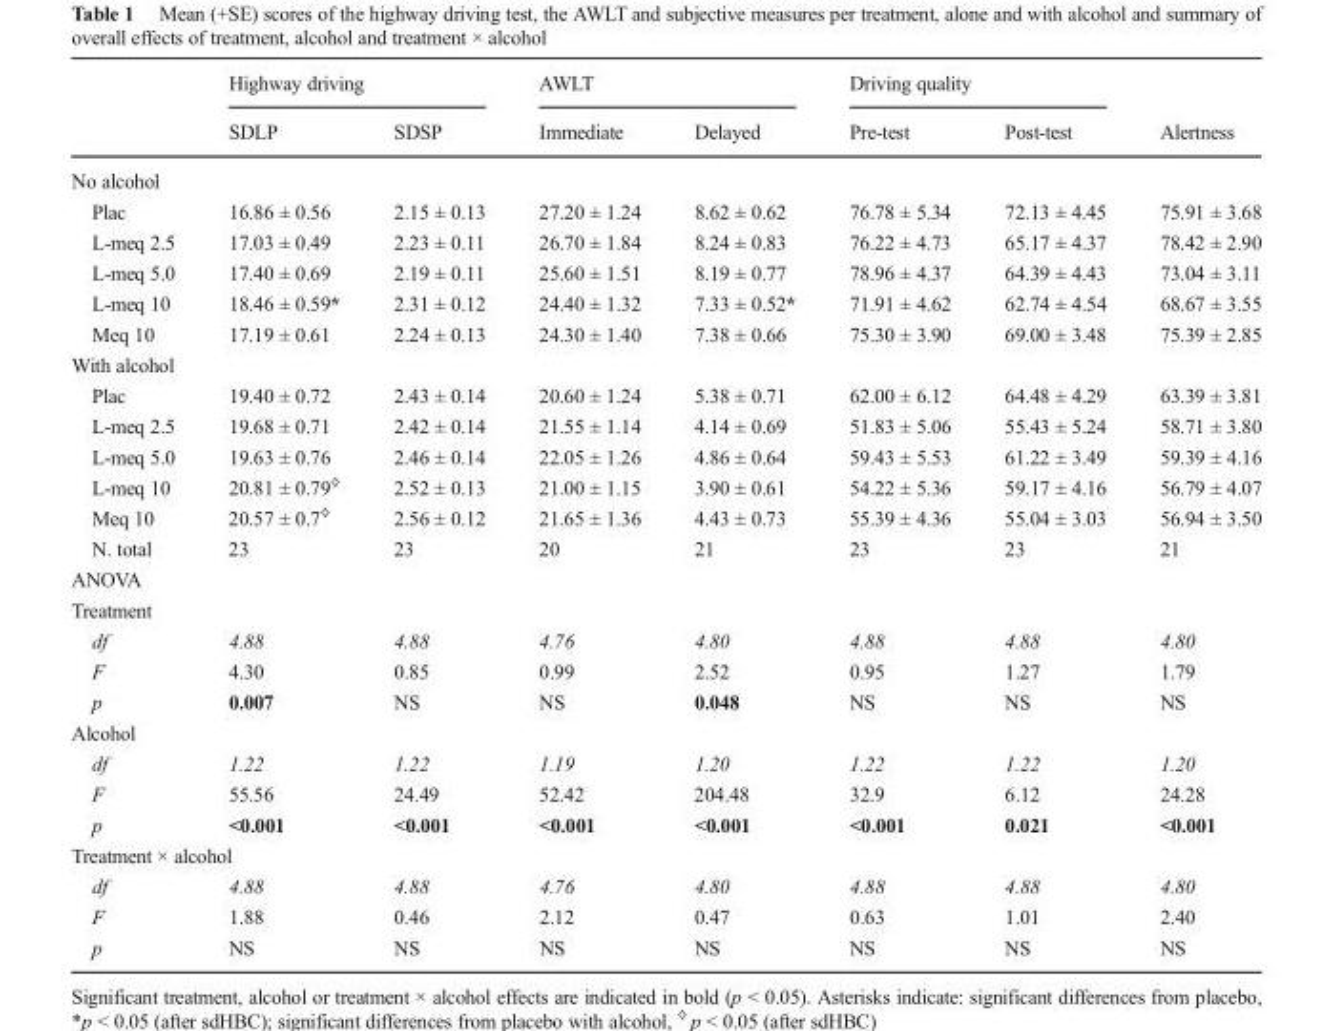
<table><thead><tr><td rowspan="2"></td><td colspan="2">Highway driving</td><td colspan="2">AWLT</td><td colspan="2">Driving quality</td><td rowspan="2">Alertness</td></tr><tr><td>SDLP</td><td>SDSP</td><td>Immediate</td><td>Delayed</td><td>Pre-test</td><td>Post-test</td></tr></thead><tbody><tr><td colspan="8">No alcohol</td></tr><tr><td>Plac</td><td>16.86 ± 0.56</td><td>2.15 ± 0.13</td><td>27.20 ± 1.24</td><td>8.62 ± 0.62</td><td>76.78 ± 5.34</td><td>72.13 ± 4.45</td><td>75.91 ± 3.68</td></tr><tr><td>L-meq 2.5</td><td>17.03 ± 0.49</td><td>2.23 ± 0.11</td><td>26.70 ± 1.84</td><td>8.24 ± 0.83</td><td>76.22 ± 4.73</td><td>65.17 ± 4.37</td><td>78.42 ± 2.90</td></tr><tr><td>L-meq 5.0</td><td>17.40 ± 0.69</td><td>2.19 ± 0.11</td><td>25.60 ± 1.51</td><td>8.19 ± 0.77</td><td>78.96 ± 4.37</td><td>64.39 ± 4.43</td><td>73.04 ± 3.11</td></tr><tr><td>L-meq 10</td><td>18.46 ± 0.59*</td><td>2.31 ± 0.12</td><td>24.40 ± 1.32</td><td>7.33 ± 0.52*</td><td>71.91 ± 4.62</td><td>62.74 ± 4.54</td><td>68.67 ± 3.55</td></tr><tr><td>Meq 10</td><td>17.19 ± 0.61</td><td>2.24 ± 0.13</td><td>24.30 ± 1.40</td><td>7.38 ± 0.66</td><td>75.30 ± 3.90</td><td>69.00 ± 3.48</td><td>75.39 ± 2.85</td></tr><tr><td colspan="8">With alcohol</td></tr><tr><td>Plac</td><td>19.40 ± 0.72</td><td>2.43 ± 0.14</td><td>20.60 ± 1.24</td><td>5.38 ± 0.71</td><td>62.00 ± 6.12</td><td>64.48 ± 4.29</td><td>63.39 ± 3.81</td></tr><tr><td>L-meq 2.5</td><td>19.68 ± 0.71</td><td>2.42 ± 0.14</td><td>21.55 ± 1.14</td><td>4.14 ± 0.69</td><td>51.83 ± 5.06</td><td>55.43 ± 5.24</td><td>58.71 ± 3.80</td></tr><tr><td>L-meq 5.0</td><td>19.63 ± 0.76</td><td>2.46 ± 0.14</td><td>22.05 ± 1.26</td><td>4.86 ± 0.64</td><td>59.43 ± 5.53</td><td>61.22 ± 3.49</td><td>59.39 ± 4.16</td></tr><tr><td>L-meq 10</td><td>20.81 ± 0.79<sup>⟡</sup></td><td>2.52 ± 0.13</td><td>21.00 ± 1.15</td><td>3.90 ± 0.61</td><td>54.22 ± 5.36</td><td>59.17 ± 4.16</td><td>56.79 ± 4.07</td></tr><tr><td>Meq 10</td><td>20.57 ± 0.7<sup>⟡</sup></td><td>2.56 ± 0.12</td><td>21.65 ± 1.36</td><td>4.43 ± 0.73</td><td>55.39 ± 4.36</td><td>55.04 ± 3.03</td><td>56.94 ± 3.50</td></tr><tr><td>N. total</td><td>23</td><td>23</td><td>20</td><td>21</td><td>23</td><td>23</td><td>21</td></tr><tr><td colspan="8">ANOVA</td></tr><tr><td colspan="8">Treatment</td></tr><tr><td>df</td><td>4.88</td><td>4.88</td><td>4.76</td><td>4.80</td><td>4.88</td><td>4.88</td><td>4.80</td></tr><tr><td>F</td><td>4.30</td><td>0.85</td><td>0.99</td><td>2.52</td><td>0.95</td><td>1.27</td><td>1.79</td></tr><tr><td>p</td><td>0.007</td><td>NS</td><td>NS</td><td>0.048</td><td>NS</td><td>NS</td><td>NS</td></tr><tr><td colspan="8">Alcohol</td></tr><tr><td>df</td><td>1.22</td><td>1.22</td><td>1.19</td><td>1.20</td><td>1.22</td><td>1.22</td><td>1.20</td></tr><tr><td>F</td><td>55.56</td><td>24.49</td><td>52.42</td><td>204.48</td><td>32.9</td><td>6.12</td><td>24.28</td></tr><tr><td>p</td><td>&lt;0.001</td><td>&lt;0.001</td><td>&lt;0.001</td><td>&lt;0.001</td><td>&lt;0.001</td><td>0.021</td><td>&lt;0.001</td></tr><tr><td colspan="8">Treatment × alcohol</td></tr><tr><td>df</td><td>4.88</td><td>4.88</td><td>4.76</td><td>4.80</td><td>4.88</td><td>4.88</td><td>4.80</td></tr><tr><td>F</td><td>1.88</td><td>0.46</td><td>2.12</td><td>0.47</td><td>0.63</td><td>1.01</td><td>2.40</td></tr><tr><td>p</td><td>NS</td><td>NS</td><td>NS</td><td>NS</td><td>NS</td><td>NS</td><td>NS</td></tr></tbody></table>